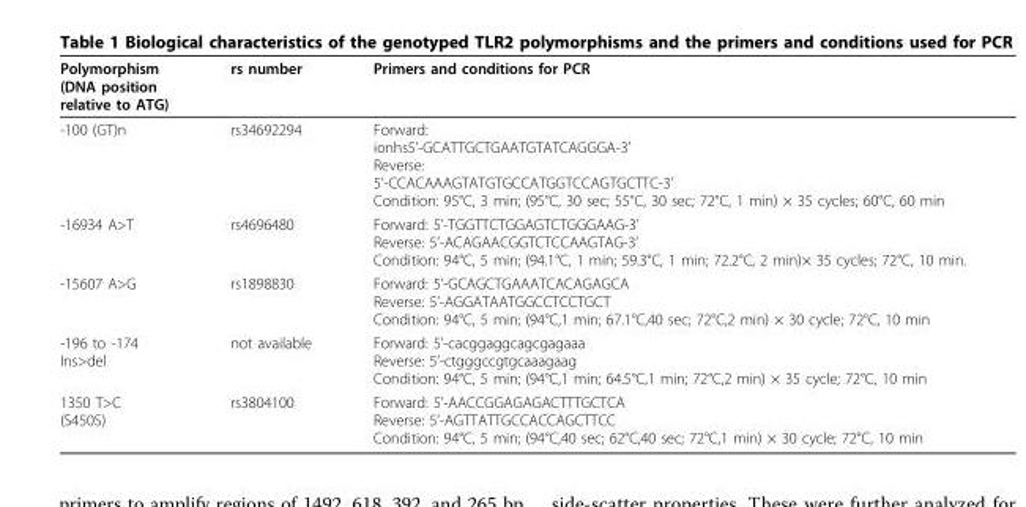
<table><thead><tr><td>Polymorphism (DNA position relative to ATG)</td><td>rs number</td><td>Primers and conditions for PCR</td></tr></thead><tbody><tr><td>-100 (GT)n</td><td>rs34692294</td><td>Forward: ionhs5’-GCATTGCTGAATGTATCAGGGA-3’ Reverse: 5’-CCACAAAGTATGTGCCATGGTCCAGTGCTTC-3’ Condition: 95°C, 3 min; (95°C, 30 sec; 55°C, 30 sec; 72°C, 1 min) × 35 cycles; 60°C, 60 min</td></tr><tr><td>-16934 A&gt;T</td><td>rs4696480</td><td>Forward: 5’-TGGTTCTGGAGTCTGGGAAG-3’ Reverse: 5’-ACAGAACGGTCTCCAAGTAG-3’ Condition: 94°C, 5 min; (94.1°C, 1 min; 59.3°C, 1 min; 72.2°C, 2 min)× 35 cycles; 72°C, 10 min.</td></tr><tr><td>-15607 A&gt;G</td><td>rs1898830</td><td>Forward: 5’-GCAGCTGAAATCACAGAGCA Reverse: 5’-AGGATAATGGCCTCCTGCT Condition: 94°C, 5 min; (94°C,1 min; 67.1°C,40 sec; 72°C,2 min) × 30 cycle; 72°C, 10 min</td></tr><tr><td>-196 to -174 Ins&gt;del</td><td>not available</td><td>Forward: 5’-cacggaggcagcgagaaa Reverse: 5’-ctgggccgtgcaaagaag Condition: 94°C, 5 min; (94°C,1 min; 64.5°C,1 min; 72°C,2 min) × 35 cycle; 72°C, 10 min</td></tr><tr><td>1350 T&gt;C (S450S)</td><td>rs3804100</td><td>Forward: 5’-AACCGGAGAGACTTTGCTCA Reverse: 5’-AGTTATTGCCACCAGCTTCC Condition: 94°C, 5 min; (94°C,40 sec; 62°C,40 sec; 72°C,1 min) × 30 cycle; 72°C, 10 min</td></tr></tbody></table>